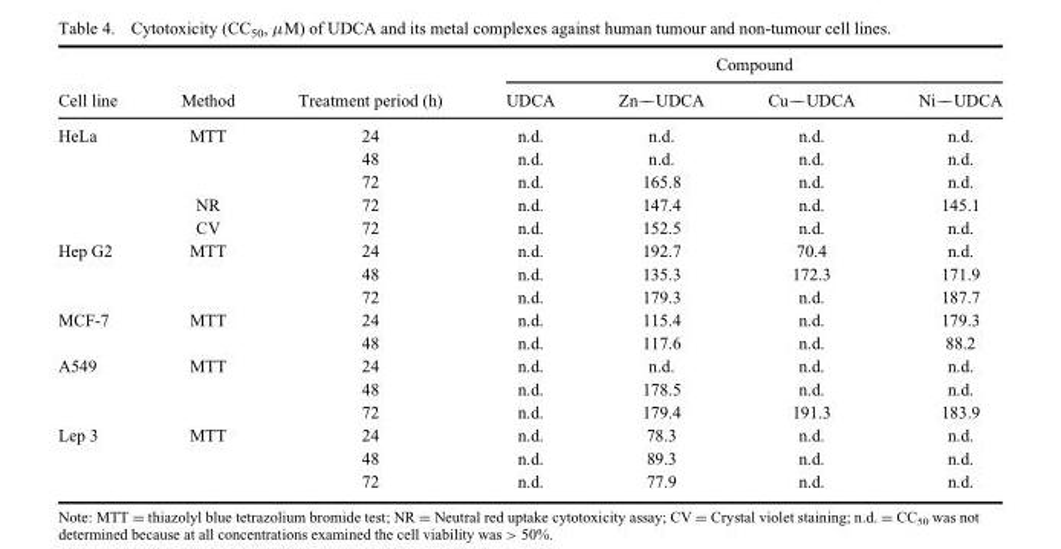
<table><thead><tr><td rowspan="2">Cell line</td><td rowspan="2">Method</td><td rowspan="2">Treatment period (h)</td><td colspan="4">Compound</td></tr><tr><td>UDCA</td><td>Zn��UDCA</td><td>Cu��UDCA</td><td>Ni��UDCA</td></tr></thead><tbody><tr><td rowspan="5">HeLa</td><td>MTT</td><td>24</td><td>n.d.</td><td>n.d.</td><td>n.d.</td><td>n.d.</td></tr><tr><td></td><td>48</td><td>n.d.</td><td>n.d.</td><td>n.d.</td><td>n.d.</td></tr><tr><td></td><td>72</td><td>n.d.</td><td>165.8</td><td>n.d.</td><td>n.d.</td></tr><tr><td>NR</td><td>72</td><td>n.d.</td><td>147.4</td><td>n.d.</td><td>145.1</td></tr><tr><td>CV</td><td>72</td><td>n.d.</td><td>152.5</td><td>n.d.</td><td>n.d.</td></tr><tr><td rowspan="3">Hep G2</td><td>MTT</td><td>24</td><td>n.d.</td><td>192.7</td><td>70.4</td><td>n.d.</td></tr><tr><td></td><td>48</td><td>n.d.</td><td>135.3</td><td>172.3</td><td>171.9</td></tr><tr><td></td><td>72</td><td>n.d.</td><td>179.3</td><td>n.d.</td><td>187.7</td></tr><tr><td rowspan="2">MCF-7</td><td>MTT</td><td>24</td><td>n.d.</td><td>115.4</td><td>n.d.</td><td>179.3</td></tr><tr><td></td><td>48</td><td>n.d.</td><td>117.6</td><td>n.d.</td><td>88.2</td></tr><tr><td rowspan="3">A549</td><td>MTT</td><td>24</td><td>n.d.</td><td>n.d.</td><td>n.d.</td><td>n.d.</td></tr><tr><td></td><td>48</td><td>n.d.</td><td>178.5</td><td>n.d.</td><td>n.d.</td></tr><tr><td></td><td>72</td><td>n.d.</td><td>179.4</td><td>191.3</td><td>183.9</td></tr><tr><td rowspan="3">Lep 3</td><td>MTT</td><td>24</td><td>n.d.</td><td>78.3</td><td>n.d.</td><td>n.d.</td></tr><tr><td></td><td>48</td><td>n.d.</td><td>89.3</td><td>n.d.</td><td>n.d.</td></tr><tr><td></td><td>72</td><td>n.d.</td><td>77.9</td><td>n.d.</td><td>n.d.</td></tr></tbody></table>